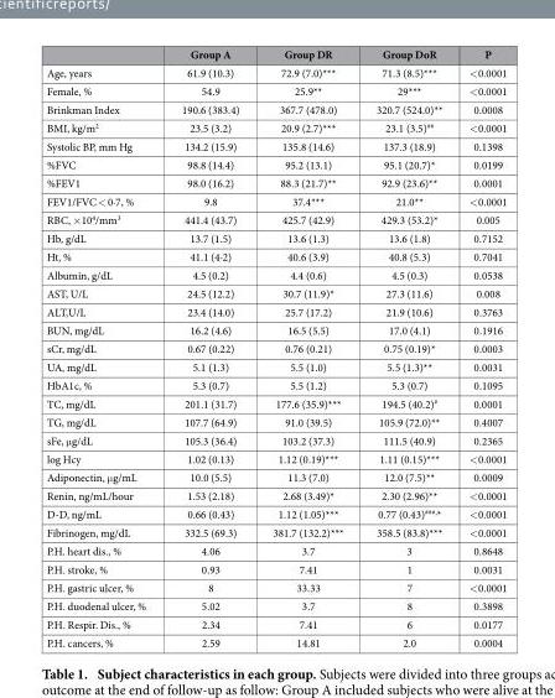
<table><thead><tr><td></td><td>Group A</td><td>Group DR</td><td>Group DoR</td><td>P</td></tr></thead><tbody><tr><td>Age, years</td><td>61.9 (10.3)</td><td>72.9 (7.0)***</td><td>71.3 (8.5)***</td><td>&lt; 0.0001</td></tr><tr><td>Female, %</td><td>54.9</td><td>25.9**</td><td>29***</td><td>&lt; 0.0001</td></tr><tr><td>Brinkman Index</td><td>190.6 (383.4)</td><td>367.7 (478.0)</td><td>320.7 (524.0)**</td><td>0.0008</td></tr><tr><td>BMI, kg/m<sup>2</sup></td><td>23.5 (3.2)</td><td>20.9 (2.7)***</td><td>23.1 (3.5)<sup>##</sup></td><td>&lt; 0.0001</td></tr><tr><td>Systolic BP, mm Hg</td><td>134.2 (15.9)</td><td>135.8 (14.6)</td><td>137.3 (18.9)</td><td>0.1398</td></tr><tr><td>%FVC</td><td>98.8 (14.4)</td><td>95.2 (13.1)</td><td>95.1 (20.7)*</td><td>0.0199</td></tr><tr><td>%FEV1</td><td>98.0 (16.2)</td><td>88.3 (21.7)**</td><td>92.9 (23.6)**</td><td>0.0001</td></tr><tr><td>FEV1/FVC &lt; 0·7, %</td><td>9.8</td><td>37.4***</td><td>21.0**</td><td>&lt; 0.0001</td></tr><tr><td>RBC, × 10<sup>4</sup>/mm<sup>3</sup></td><td>441.4 (43.7)</td><td>425.7 (42.9)</td><td>429.3 (53.2)*</td><td>0.005</td></tr><tr><td>Hb, g/dL</td><td>13.7 (1.5)</td><td>13.6 (1.3)</td><td>13.6 (1.8)</td><td>0.7152</td></tr><tr><td>Ht, %</td><td>41.1 (4·2)</td><td>40.6 (3.9)</td><td>40.8 (5.3)</td><td>0.7041</td></tr><tr><td>Albumin, g/dL</td><td>4.5 (0.2)</td><td>4.4 (0.6)</td><td>4.5 (0.3)</td><td>0.0538</td></tr><tr><td>AST, U/L</td><td>24.5 (12.2)</td><td>30.7 (11.9)*</td><td>27.3 (11.6)</td><td>0.008</td></tr><tr><td>ALT,U/L</td><td>23.4 (14.0)</td><td>25.7 (17.2)</td><td>21.9 (10.6)</td><td>0.3763</td></tr><tr><td>BUN, mg/dL</td><td>16.2 (4.6)</td><td>16.5 (5.5)</td><td>17.0 (4.1)</td><td>0.1916</td></tr><tr><td>sCr, mg/dL</td><td>0.67 (0.22)</td><td>0.76 (0.21)</td><td>0.75 (0.19)*</td><td>0.0003</td></tr><tr><td>UA, mg/dL</td><td>5.1 (1.3)</td><td>5.5 (1.0)</td><td>5.5 (1.3)**</td><td>0.0031</td></tr><tr><td>HbA1c, %</td><td>5.3 (0.7)</td><td>5.5 (1.2)</td><td>5.3 (0.7)</td><td>0.1095</td></tr><tr><td>TC, mg/dL</td><td>201.1 (31.7)</td><td>177.6 (35.9)***</td><td>194.5 (40.2)<sup>#</sup></td><td>0.0001</td></tr><tr><td>TG, mg/dL</td><td>107.7 (64.9)</td><td>91.0 (39.5)</td><td>105.9 (72.0)**</td><td>0.4007</td></tr><tr><td>sFe, μ g/dL</td><td>105.3 (36.4)</td><td>103.2 (37.3)</td><td>111.5 (40.9)</td><td>0.2365</td></tr><tr><td>log Hcy</td><td>1.02 (0.13)</td><td>1.12 (0.19)***</td><td>1.11 (0.15)***</td><td>&lt; 0.0001</td></tr><tr><td>Adiponectin, μ g/mL</td><td>10.0 (5.5)</td><td>11.3 (7.0)</td><td>12.0 (7.5)**</td><td>0.0009</td></tr><tr><td>Renin, ng/mL/hour</td><td>1.53 (2.18)</td><td>2.68 (3.49)*</td><td>2.30 (2.96)**</td><td>&lt; 0.0001</td></tr><tr><td>D-D, ng/mL</td><td>0.66 (0.43)</td><td>1.12 (1.05)***</td><td>0.77 (0.43)<sup>###,</sup>*</td><td>&lt; 0.0001</td></tr><tr><td>Fibrinogen, mg/dL</td><td>332.5 (69.3)</td><td>381.7 (132.2)***</td><td>358.5 (83.8)***</td><td>&lt; 0.0001</td></tr><tr><td>P.H. heart dis., %</td><td>4.06</td><td>3.7</td><td>3</td><td>0.8648</td></tr><tr><td>P.H. stroke, %</td><td>0.93</td><td>7.41</td><td>1</td><td>0.0031</td></tr><tr><td>P.H. gastric ulcer, %</td><td>8</td><td>33.33</td><td>7</td><td>&lt; 0.0001</td></tr><tr><td>P.H. duodenal ulcer, %</td><td>5.02</td><td>3.7</td><td>8</td><td>0.3898</td></tr><tr><td>P.H. Respir. Dis., %</td><td>2.34</td><td>7.41</td><td>6</td><td>0.0177</td></tr><tr><td>P.H. cancers, %</td><td>2.59</td><td>14.81</td><td>2.0</td><td>0.0004</td></tr></tbody></table>